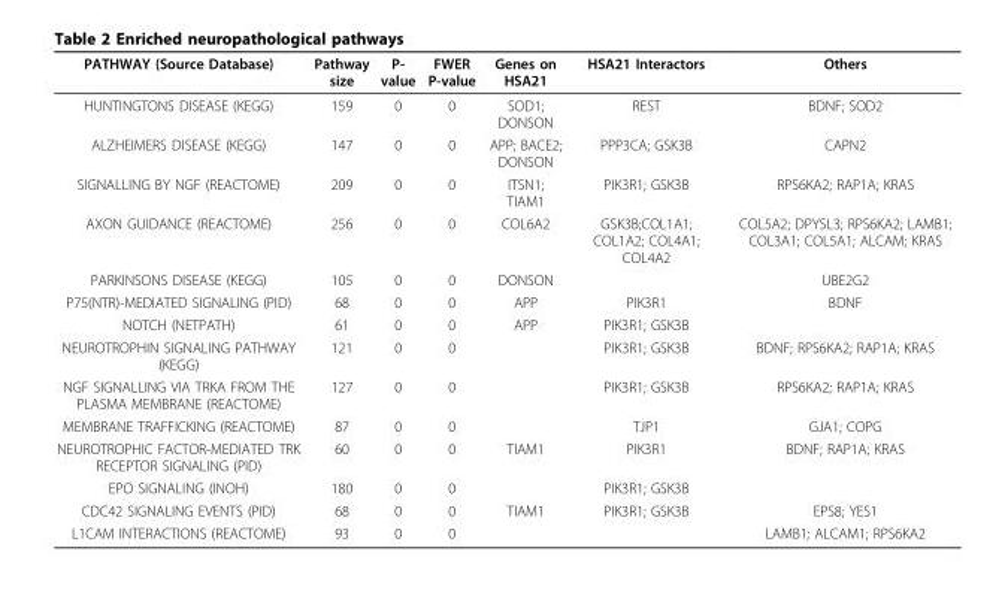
<table><thead><tr><td>PATHWAY (Source Database)</td><td>Pathway size</td><td>P- value</td><td>FWER P-value</td><td>Genes on HSA21</td><td>HSA21 Interactors</td><td>Others</td></tr></thead><tbody><tr><td>HUNTINGTONS DISEASE (KEGG)</td><td>159</td><td>0</td><td>0</td><td>SOD1; DONSON</td><td>REST</td><td>BDNF; SOD2</td></tr><tr><td>ALZHEIMERS DISEASE (KEGG)</td><td>147</td><td>0</td><td>0</td><td>APP; BACE2; DONSON</td><td>PPP3CA; GSK3B</td><td>CAPN2</td></tr><tr><td>SIGNALLING BY NGF (REACTOME)</td><td>209</td><td>0</td><td>0</td><td>ITSN1; TIAM1</td><td>PIK3R1; GSK3B</td><td>RPS6KA2; RAP1A; KRAS</td></tr><tr><td>AXON GUIDANCE (REACTOME)</td><td>256</td><td>0</td><td>0</td><td>COL6A2</td><td>GSK3B;COL1A1; COL1A2; COL4A1; COL4A2</td><td>COL5A2; DPYSL3; RPS6KA2; LAMB1; COL3A1; COL5A1; ALCAM; KRAS</td></tr><tr><td>PARKINSONS DISEASE (KEGG)</td><td>105</td><td>0</td><td>0</td><td>DONSON</td><td></td><td>UBE2G2</td></tr><tr><td>P75(NTR)-MEDIATED SIGNALING (PID)</td><td>68</td><td>0</td><td>0</td><td>APP</td><td>PIK3R1</td><td>BDNF</td></tr><tr><td>NOTCH (NETPATH)</td><td>61</td><td>0</td><td>0</td><td>APP</td><td>PIK3R1; GSK3B</td><td></td></tr><tr><td>NEUROTROPHIN SIGNALING PATHWAY (KEGG)</td><td>121</td><td>0</td><td>0</td><td></td><td>PIK3R1; GSK3B</td><td>BDNF; RPS6KA2; RAP1A; KRAS</td></tr><tr><td>NGF SIGNALLING VIA TRKA FROM THE PLASMA MEMBRANE (REACTOME)</td><td>127</td><td>0</td><td>0</td><td></td><td>PIK3R1; GSK3B</td><td>RPS6KA2; RAP1A; KRAS</td></tr><tr><td>MEMBRANE TRAFFICKING (REACTOME)</td><td>87</td><td>0</td><td>0</td><td></td><td>TJP1</td><td>GJA1; COPG</td></tr><tr><td>NEUROTROPHIC FACTOR-MEDIATED TRK RECEPTOR SIGNALING (PID)</td><td>60</td><td>0</td><td>0</td><td>TIAM1</td><td>PIK3R1</td><td>BDNF; RAP1A; KRAS</td></tr><tr><td>EPO SIGNALING (INOH)</td><td>180</td><td>0</td><td>0</td><td></td><td>PIK3R1; GSK3B</td><td></td></tr><tr><td>CDC42 SIGNALING EVENTS (PID)</td><td>68</td><td>0</td><td>0</td><td>TIAM1</td><td>PIK3R1; GSK3B</td><td>EPS8; YES1</td></tr><tr><td>L1CAM INTERACTIONS (REACTOME)</td><td>93</td><td>0</td><td>0</td><td></td><td></td><td>LAMB1; ALCAM1; RPS6KA2</td></tr></tbody></table>